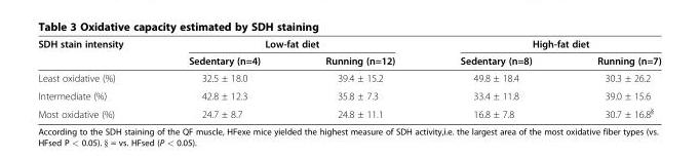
<table><thead><tr><td rowspan="2">SDH stain intensity</td><td colspan="2">Low-fat diet</td><td colspan="2">High-fat diet</td></tr><tr><td>Sedentary (n=4)</td><td>Running (n=12)</td><td>Sedentary (n=8)</td><td>Running (n=7)</td></tr></thead><tbody><tr><td>Least oxidative (%)</td><td>32.5 ± 18.0</td><td>39.4 ± 15.2</td><td>49.8 ± 18.4</td><td>30.3 ± 26.2</td></tr><tr><td>Intermediate (%)</td><td>42.8 ± 12.3</td><td>35.8 ± 7.3</td><td>33.4 ± 11.8</td><td>39.0 ± 15.6</td></tr><tr><td>Most oxidative (%)</td><td>24.7 ± 8.7</td><td>24.8 ± 11.1</td><td>16.8 ± 7.8</td><td>30.7 ± 16.8<sup>§</sup></td></tr></tbody></table>